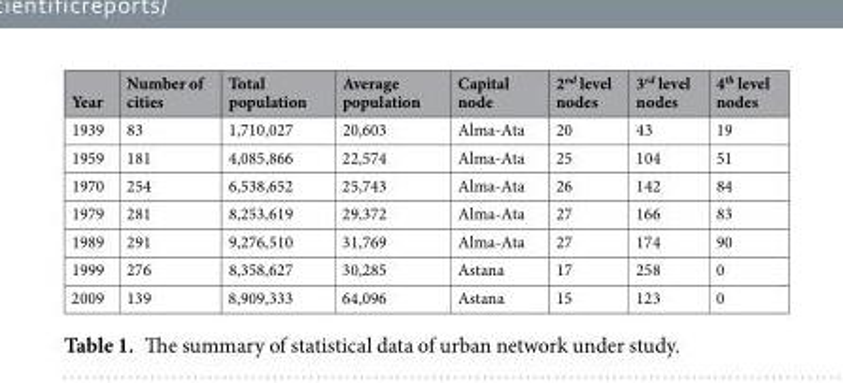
<table><thead><tr><td>Year</td><td>Number of cities</td><td>Total population</td><td>Average population</td><td>Capital node</td><td>2<sup>nd</sup> level nodes</td><td>3<sup>rd</sup> level nodes</td><td>4<sup>th</sup> level nodes</td></tr></thead><tbody><tr><td>1939</td><td>83</td><td>1,710,027</td><td>20,603</td><td>Alma-Ata</td><td>20</td><td>43</td><td>19</td></tr><tr><td>1959</td><td>181</td><td>4,085,866</td><td>22,574</td><td>Alma-Ata</td><td>25</td><td>104</td><td>51</td></tr><tr><td>1970</td><td>254</td><td>6,538,652</td><td>25,743</td><td>Alma-Ata</td><td>26</td><td>142</td><td>84</td></tr><tr><td>1979</td><td>281</td><td>8,253,619</td><td>29,372</td><td>Alma-Ata</td><td>27</td><td>166</td><td>83</td></tr><tr><td>1989</td><td>291</td><td>9,276,510</td><td>31,769</td><td>Alma-Ata</td><td>27</td><td>174</td><td>90</td></tr><tr><td>1999</td><td>276</td><td>8,358,627</td><td>30,285</td><td>Astana</td><td>17</td><td>258</td><td>0</td></tr><tr><td>2009</td><td>139</td><td>8,909,333</td><td>64,096</td><td>Astana</td><td>15</td><td>123</td><td>0</td></tr></tbody></table>